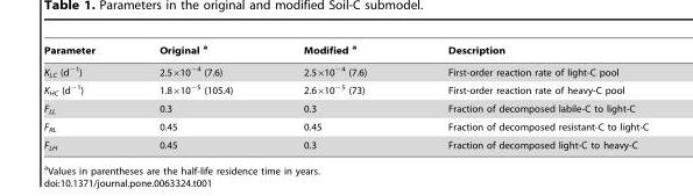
<table><thead><tr><td>Parameter</td><td>Original a</td><td>Modified a</td><td>Description</td></tr></thead><tbody><tr><td>K<sub>LC</sub> (d<sup>−1</sup>)</td><td>2.5×10<sup>−4</sup> (7.6)</td><td>2.5×10<sup>−4</sup> (7.6)</td><td>First-order reaction rate of light-C pool</td></tr><tr><td>K<sub>HC</sub> (d<sup>−1</sup>)</td><td>1.8×10<sup>−5</sup> (105.4)</td><td>2.6×10<sup>−5</sup> (73)</td><td>First-order reaction rate of heavy-C pool</td></tr><tr><td>F<sub>LL</sub></td><td>0.3</td><td>0.3</td><td>Fraction of decomposed labile-C to light-C</td></tr><tr><td>F<sub>RL</sub></td><td>0.45</td><td>0.45</td><td>Fraction of decomposed resistant-C to light-C</td></tr><tr><td>F<sub>LH</sub></td><td>0.45</td><td>0.3</td><td>Fraction of decomposed light-C to heavy-C</td></tr></tbody></table>